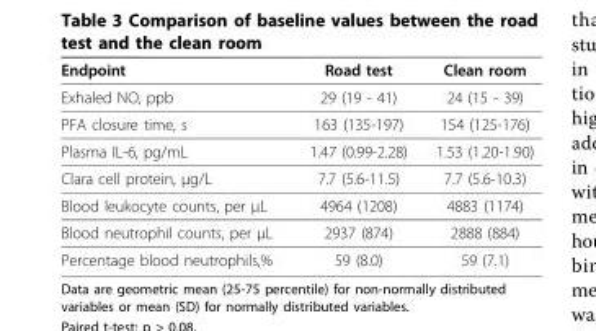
<table><thead><tr><td>Endpoint</td><td>Road test</td><td>Clean room</td></tr></thead><tbody><tr><td>Exhaled NO, ppb</td><td>29 (19 - 41)</td><td>24 (15 - 39)</td></tr><tr><td>PFA closure time, s</td><td>163 (135-197)</td><td>154 (125-176)</td></tr><tr><td>Plasma IL-6, pg/mL</td><td>1.47 (0.99-2.28)</td><td>1.53 (1.20-1.90)</td></tr><tr><td>Clara cell protein, μg/L</td><td>7.7 (5.6-11.5)</td><td>7.7 (5.6-10.3)</td></tr><tr><td>Blood leukocyte counts, per μL</td><td>4964 (1208)</td><td>4883 (1174)</td></tr><tr><td>Blood neutrophil counts, per μL</td><td>2937 (874)</td><td>2888 (884)</td></tr><tr><td>Percentage blood neutrophils,%</td><td>59 (8.0)</td><td>59 (7.1)</td></tr></tbody></table>